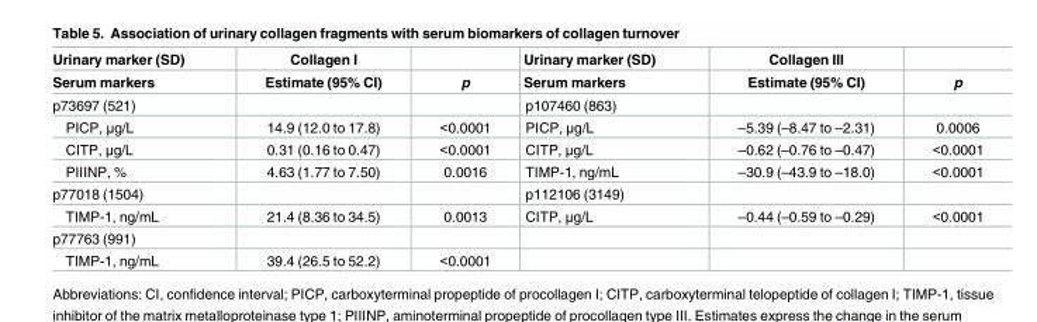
<table><thead><tr><td rowspan="2">Urinary marker (SD) Serum markers</td><td rowspan="2">Collagen I Estimate (95% CI)</td><td rowspan="2">p</td><td rowspan="2">Urinary marker (SD) Serum markers</td><td rowspan="2">Collagen III Estimate (95% CI)</td><td rowspan="2">p</td></tr><tr></tr></thead><tbody><tr><td>p73697 (521)</td><td></td><td></td><td>p107460 (863)</td><td></td><td></td></tr><tr><td>PICP, μg/L</td><td>14.9 (12.0 to 17.8)</td><td>&lt;0.0001</td><td>PICP, μg/L</td><td>–5.39 (–8.47 to –2.31)</td><td>0.0006</td></tr><tr><td>CITP, μg/L</td><td>0.31 (0.16 to 0.47)</td><td>&lt;0.0001</td><td>CITP, μg/L</td><td>–0.62 (–0.76 to –0.47)</td><td>&lt;0.0001</td></tr><tr><td>PIIINP, %</td><td>4.63 (1.77 to 7.50)</td><td>0.0016</td><td>TIMP-1, ng/mL</td><td>–30.9 (–43.9 to –18.0)</td><td>&lt;0.0001</td></tr><tr><td>p77018 (1504)</td><td></td><td></td><td>p112106 (3149)</td><td></td><td></td></tr><tr><td>TIMP-1, ng/mL</td><td>21.4 (8.36 to 34.5)</td><td>0.0013</td><td>CITP, μg/L</td><td>–0.44 (–0.59 to –0.29)</td><td>&lt;0.0001</td></tr><tr><td colspan="6">p77763 (991)</td></tr><tr><td>TIMP-1, ng/mL</td><td>39.4 (26.5 to 52.2)</td><td>&lt;0.0001</td><td></td><td></td><td></td></tr></tbody></table>